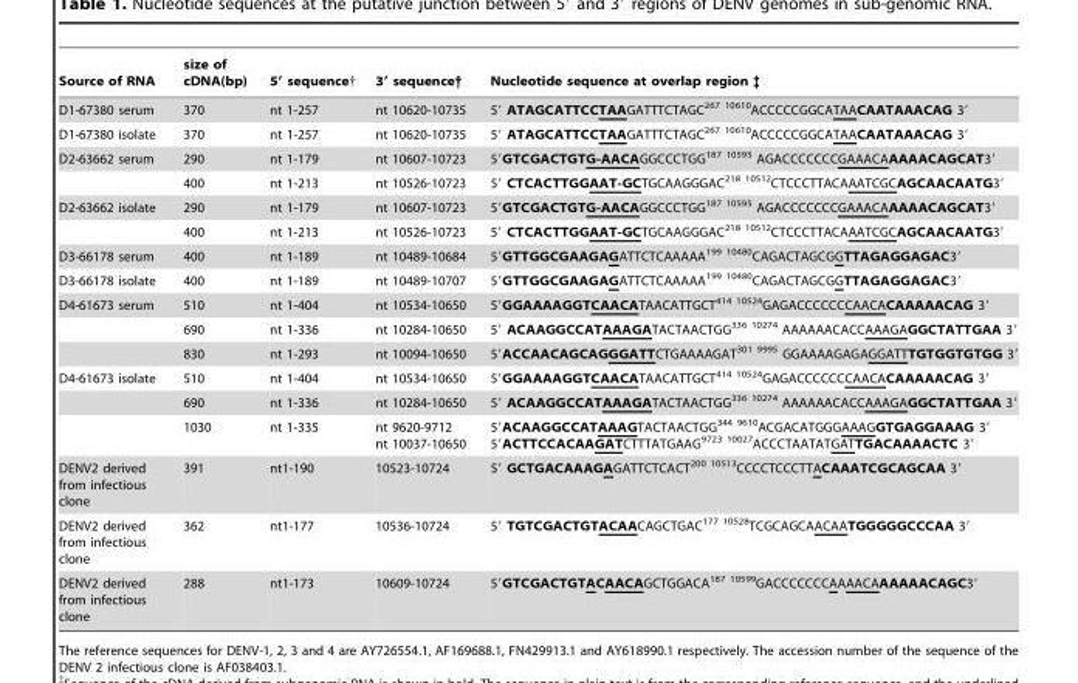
<table><thead><tr><td>Source of RNA</td><td>size of cDNA(bp)</td><td>5′ sequence†</td><td>3′ sequence†</td><td>Nucleotide sequence at overlap region ‡</td></tr></thead><tbody><tr><td>D1-67380 serum</td><td>370</td><td>nt 1-257</td><td>nt 10620-10735</td><td>5′ ATAGCATTCCTAAGATTTCTAGC<sup>267 10610</sup>ACCCCCGGCATAACAATAAACAG 3′</td></tr><tr><td>D1-67380 isolate</td><td>370</td><td>nt 1-257</td><td>nt 10620-10735</td><td>5′ ATAGCATTCCTAAGATTTCTAGC<sup>267 10610</sup>ACCCCCGGCATAACAATAAACAG 3′</td></tr><tr><td rowspan="2">D2-63662 serum</td><td>290</td><td>nt 1-179</td><td>nt 10607-10723</td><td>5′GTCGACTGTG-AACAGGCCCTGG<sup>187 10595</sup> AGACCCCCCCGAAACAAAAACAGCAT3′</td></tr><tr><td>400</td><td>nt 1-213</td><td>nt 10526-10723</td><td>5′ CTCACTTGGAAT-GCTGCAAGGGAC<sup>218 10512</sup>CTCCCTTACAAATCGCAGCAACAATG3′</td></tr><tr><td rowspan="2">D2-63662 isolate</td><td>290</td><td>nt 1-179</td><td>nt 10607-10723</td><td>5′GTCGACTGTG-AACAGGCCCTGG<sup>187 10595</sup> AGACCCCCCCGAAACAAAAACAGCAT3′</td></tr><tr><td>400</td><td>nt 1-213</td><td>nt 10526-10723</td><td>5′ CTCACTTGGAAT-GCTGCAAGGGAC<sup>218 10512</sup>CTCCCTTACAAATCGCAGCAACAATG3′</td></tr><tr><td>D3-66178 serum</td><td>400</td><td>nt 1-189</td><td>nt 10489-10684</td><td>5′GTTGGCGAAGAGATTCTCAAAAA<sup>199 10480</sup>CAGACTAGCGGTTAGAGGAGAC3′</td></tr><tr><td>D3-66178 isolate</td><td>400</td><td>nt 1-189</td><td>nt 10489-10707</td><td>5′GTTGGCGAAGAGATTCTCAAAAA<sup>199 10480</sup>CAGACTAGCGGTTAGAGGAGAC3′</td></tr><tr><td rowspan="3">D4-61673 serum</td><td>510</td><td>nt 1-404</td><td>nt 10534-10650</td><td>5′GGAAAAGGTCAACATAACATTGCT<sup>414 10524</sup>GAGACCCCCCCAACACAAAAACAG 3′</td></tr><tr><td>690</td><td>nt 1-336</td><td>nt 10284-10650</td><td>5′ ACAAGGCCATAAAGATACTAACTGG<sup>336 10274</sup> AAAAAACACCAAAGAGGCTATTGAA 3′</td></tr><tr><td>830</td><td>nt 1-293</td><td>nt 10094-10650</td><td>5′ACCAACAGCAGGGATTCTGAAAAGAT<sup>301 9995</sup> GGAAAAGAGAGGATTTGTGGTGTGG 3′</td></tr><tr><td rowspan="3">D4-61673 isolate</td><td>510</td><td>nt 1-404</td><td>nt 10534-10650</td><td>5′GGAAAAGGTCAACATAACATTGCT<sup>414 10524</sup>GAGACCCCCCCAACACAAAAACAG 3′</td></tr><tr><td>690</td><td>nt 1-336</td><td>nt 10284-10650</td><td>5′ ACAAGGCCATAAAGATACTAACTGG<sup>336 10274</sup> AAAAAACACCAAAGAGGCTATTGAA 3′</td></tr><tr><td>1030</td><td>nt 1-335</td><td>nt 9620-9712 nt 10037-10650</td><td>5′ACAAGGCCATAAAGTACTAACTGG<sup>344 9610</sup>ACGACATGGGAAAGGTGAGGAAAG 3′ 5′ACTTCCACAAGATCTTTATGAAG<sup>9723 10027</sup>ACCCTAATATGATTGACAAAACTC 3′</td></tr><tr><td>DENV2 derived from infectious clone</td><td>391</td><td>nt1-190</td><td>10523-10724</td><td>5′ GCTGACAAAGAGATTCTCACT<sup>200 10513</sup>CCCCTCCCTTACAAATCGCAGCAA 3′</td></tr><tr><td>DENV2 derived from infectious clone</td><td>362</td><td>nt1-177</td><td>10536-10724</td><td>5′ TGTCGACTGTACAACAGCTGAC<sup>177 10528</sup>TCGCAGCAACAATGGGGGCCCAA 3′</td></tr><tr><td>DENV2 derived from infectious clone</td><td>288</td><td>nt1-173</td><td>10609-10724</td><td>5′GTCGACTGTACAACAGCTGGACA<sup>187 10599</sup>GACCCCCCCAAAACAAAAAACAGC3′</td></tr></tbody></table>